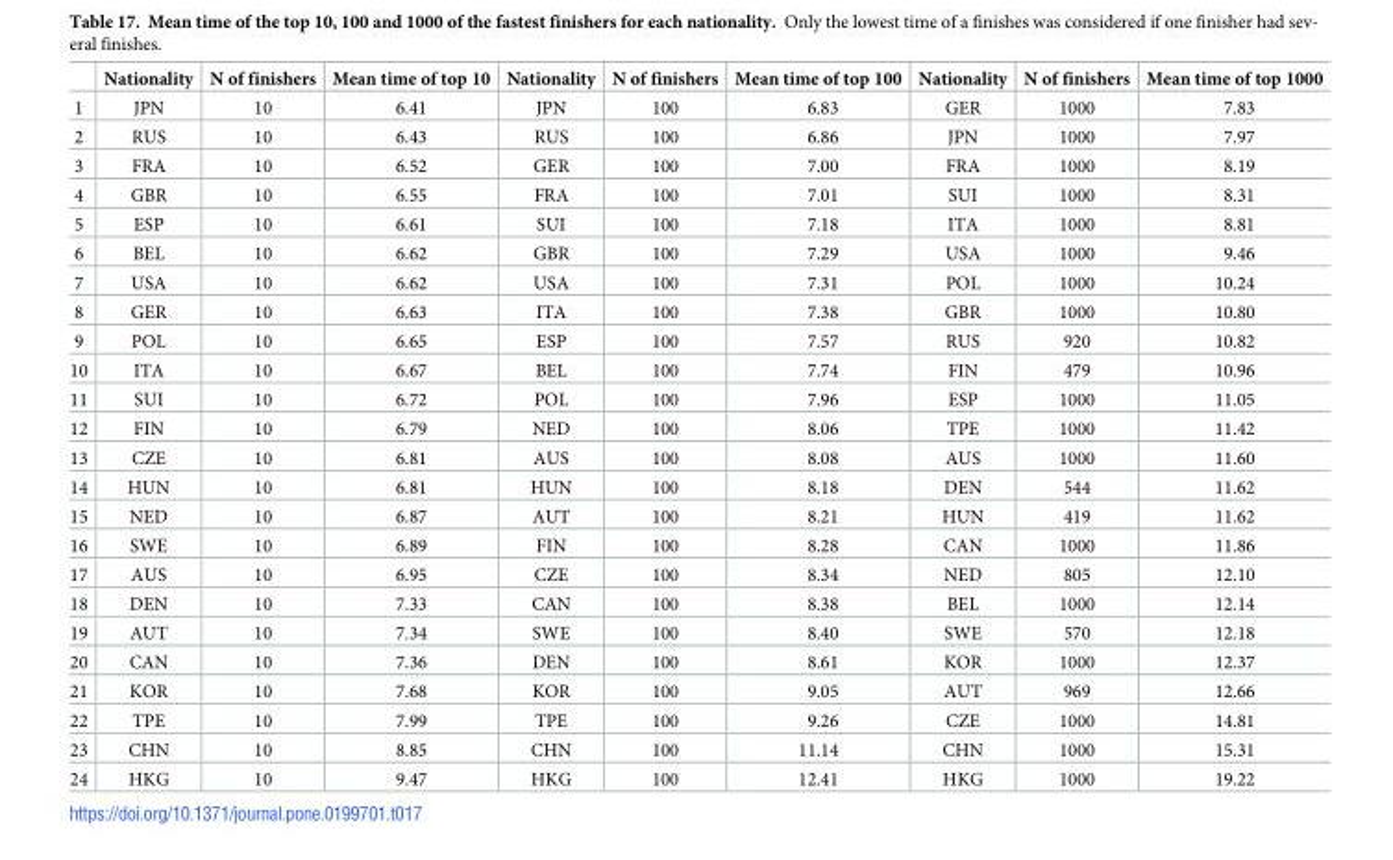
<table><thead><tr><td></td><td>Nationality</td><td>N of finishers</td><td>Mean time of top 10</td><td>Nationality</td><td>N of finishers</td><td>Mean time of top 100</td><td>Nationality</td><td>N of finishers</td><td>Mean time of top 1000</td></tr></thead><tbody><tr><td>1</td><td>JPN</td><td>10</td><td>6.41</td><td>JPN</td><td>100</td><td>6.83</td><td>GER</td><td>1000</td><td>7.83</td></tr><tr><td>2</td><td>RUS</td><td>10</td><td>6.43</td><td>RUS</td><td>100</td><td>6.86</td><td>JPN</td><td>1000</td><td>7.97</td></tr><tr><td>3</td><td>FRA</td><td>10</td><td>6.52</td><td>GER</td><td>100</td><td>7.00</td><td>FRA</td><td>1000</td><td>8.19</td></tr><tr><td>4</td><td>GBR</td><td>10</td><td>6.55</td><td>FRA</td><td>100</td><td>7.01</td><td>SUI</td><td>1000</td><td>8.31</td></tr><tr><td>5</td><td>ESP</td><td>10</td><td>6.61</td><td>SUI</td><td>100</td><td>7.18</td><td>ITA</td><td>1000</td><td>8.81</td></tr><tr><td>6</td><td>BEL</td><td>10</td><td>6.62</td><td>GBR</td><td>100</td><td>7.29</td><td>USA</td><td>1000</td><td>9.46</td></tr><tr><td>7</td><td>USA</td><td>10</td><td>6.62</td><td>USA</td><td>100</td><td>7.31</td><td>POL</td><td>1000</td><td>10.24</td></tr><tr><td>8</td><td>GER</td><td>10</td><td>6.63</td><td>ITA</td><td>100</td><td>7.38</td><td>GBR</td><td>1000</td><td>10.80</td></tr><tr><td>9</td><td>POL</td><td>10</td><td>6.65</td><td>ESP</td><td>100</td><td>7.57</td><td>RUS</td><td>920</td><td>10.82</td></tr><tr><td>10</td><td>ITA</td><td>10</td><td>6.67</td><td>BEL</td><td>100</td><td>7.74</td><td>FIN</td><td>479</td><td>10.96</td></tr><tr><td>11</td><td>SUI</td><td>10</td><td>6.72</td><td>POL</td><td>100</td><td>7.96</td><td>ESP</td><td>1000</td><td>11.05</td></tr><tr><td>12</td><td>FIN</td><td>10</td><td>6.79</td><td>NED</td><td>100</td><td>8.06</td><td>TPE</td><td>1000</td><td>11.42</td></tr><tr><td>13</td><td>CZE</td><td>10</td><td>6.81</td><td>AUS</td><td>100</td><td>8.08</td><td>AUS</td><td>1000</td><td>11.60</td></tr><tr><td>14</td><td>HUN</td><td>10</td><td>6.81</td><td>HUN</td><td>100</td><td>8.18</td><td>DEN</td><td>544</td><td>11.62</td></tr><tr><td>15</td><td>NED</td><td>10</td><td>6.87</td><td>AUT</td><td>100</td><td>8.21</td><td>HUN</td><td>419</td><td>11.62</td></tr><tr><td>16</td><td>SWE</td><td>10</td><td>6.89</td><td>FIN</td><td>100</td><td>8.28</td><td>CAN</td><td>1000</td><td>11.86</td></tr><tr><td>17</td><td>AUS</td><td>10</td><td>6.95</td><td>CZE</td><td>100</td><td>8.34</td><td>NED</td><td>805</td><td>12.10</td></tr><tr><td>18</td><td>DEN</td><td>10</td><td>7.33</td><td>CAN</td><td>100</td><td>8.38</td><td>BEL</td><td>1000</td><td>12.14</td></tr><tr><td>19</td><td>AUT</td><td>10</td><td>7.34</td><td>SWE</td><td>100</td><td>8.40</td><td>SWE</td><td>570</td><td>12.18</td></tr><tr><td>20</td><td>CAN</td><td>10</td><td>7.36</td><td>DEN</td><td>100</td><td>8.61</td><td>KOR</td><td>1000</td><td>12.37</td></tr><tr><td>21</td><td>KOR</td><td>10</td><td>7.68</td><td>KOR</td><td>100</td><td>9.05</td><td>AUT</td><td>969</td><td>12.66</td></tr><tr><td>22</td><td>TPE</td><td>10</td><td>7.99</td><td>TPE</td><td>100</td><td>9.26</td><td>CZE</td><td>1000</td><td>14.81</td></tr><tr><td>23</td><td>CHN</td><td>10</td><td>8.85</td><td>CHN</td><td>100</td><td>11.14</td><td>CHN</td><td>1000</td><td>15.31</td></tr><tr><td>24</td><td>HKG</td><td>10</td><td>9.47</td><td>HKG</td><td>100</td><td>12.41</td><td>HKG</td><td>1000</td><td>19.22</td></tr></tbody></table>